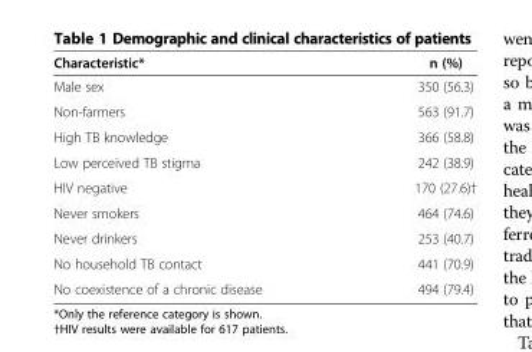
<table><thead><tr><td>Characteristic*</td><td>n (%)</td></tr></thead><tbody><tr><td>Male sex</td><td>350 (56.3)</td></tr><tr><td>Non-farmers</td><td>563 (91.7)</td></tr><tr><td>High TB knowledge</td><td>366 (58.8)</td></tr><tr><td>Low perceived TB stigma</td><td>242 (38.9)</td></tr><tr><td>HIV negative</td><td>170 (27.6)†</td></tr><tr><td>Never smokers</td><td>464 (74.6)</td></tr><tr><td>Never drinkers</td><td>253 (40.7)</td></tr><tr><td>No household TB contact</td><td>441 (70.9)</td></tr><tr><td>No coexistence of a chronic disease</td><td>494 (79.4)</td></tr></tbody></table>